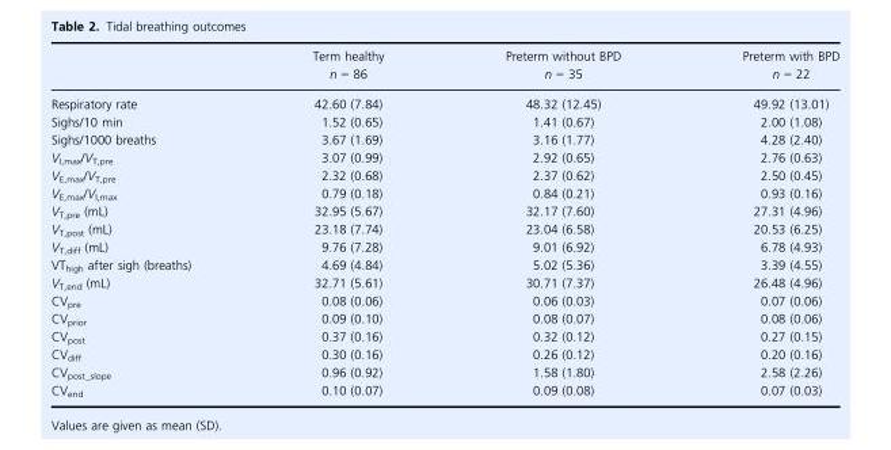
<table><thead><tr><td></td><td>Term healthy n = 86</td><td>Preterm without BPD n = 35</td><td>Preterm with BPD n = 22</td></tr></thead><tbody><tr><td>Respiratory rate</td><td>42.60 (7.84)</td><td>48.32 (12.45)</td><td>49.92 (13.01)</td></tr><tr><td>Sighs/10 min</td><td>1.52 (0.65)</td><td>1.41 (0.67)</td><td>2.00 (1.08)</td></tr><tr><td>Sighs/1000 breaths</td><td>3.67 (1.69)</td><td>3.16 (1.77)</td><td>4.28 (2.40)</td></tr><tr><td>V<sub>I,max</sub>/V<sub>T,pre</sub></td><td>3.07 (0.99)</td><td>2.92 (0.65)</td><td>2.76 (0.63)</td></tr><tr><td>V<sub>E,max</sub>/V<sub>T,pre</sub></td><td>2.32 (0.68)</td><td>2.37 (0.62)</td><td>2.50 (0.45)</td></tr><tr><td>V<sub>E,max</sub>/V<sub>I,max</sub></td><td>0.79 (0.18)</td><td>0.84 (0.21)</td><td>0.93 (0.16)</td></tr><tr><td>V<sub>T,pre</sub> (mL)</td><td>32.95 (5.67)</td><td>32.17 (7.60)</td><td>27.31 (4.96)</td></tr><tr><td>V<sub>T,post</sub> (mL)</td><td>23.18 (7.74)</td><td>23.04 (6.58)</td><td>20.53 (6.25)</td></tr><tr><td>V<sub>T,diff</sub> (mL)</td><td>9.76 (7.28)</td><td>9.01 (6.92)</td><td>6.78 (4.93)</td></tr><tr><td>VT<sub>high</sub> after sigh (breaths)</td><td>4.69 (4.84)</td><td>5.02 (5.36)</td><td>3.39 (4.55)</td></tr><tr><td>V<sub>T,end</sub> (mL)</td><td>32.71 (5.61)</td><td>30.71 (7.37)</td><td>26.48 (4.96)</td></tr><tr><td>CV<sub>pre</sub></td><td>0.08 (0.06)</td><td>0.06 (0.03)</td><td>0.07 (0.06)</td></tr><tr><td>CV<sub>prior</sub></td><td>0.09 (0.10)</td><td>0.08 (0.07)</td><td>0.08 (0.06)</td></tr><tr><td>CV<sub>post</sub></td><td>0.37 (0.16)</td><td>0.32 (0.12)</td><td>0.27 (0.15)</td></tr><tr><td>CV<sub>diff</sub></td><td>0.30 (0.16)</td><td>0.26 (0.12)</td><td>0.20 (0.16)</td></tr><tr><td>CV<sub>post_slope</sub></td><td>0.96 (0.92)</td><td>1.58 (1.80)</td><td>2.58 (2.26)</td></tr><tr><td>CV<sub>end</sub></td><td>0.10 (0.07)</td><td>0.09 (0.08)</td><td>0.07 (0.03)</td></tr></tbody></table>